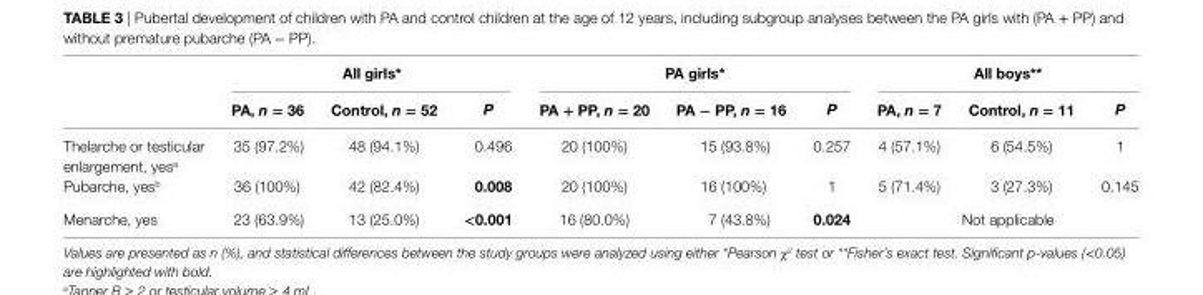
<table><thead><tr><td rowspan="2"></td><td colspan="3">all girls*</td><td colspan="3">Pa girls*</td><td colspan="3">all boys**</td></tr><tr><td>Pa, n = 36</td><td>control, n = 52</td><td>P</td><td>Pa + PP, n = 20</td><td>Pa − PP, n = 16</td><td>P</td><td>Pa, n = 7</td><td>control, n = 11</td><td>P</td></tr></thead><tbody><tr><td>Thelarche or testicular enlargement, yes<sup>a</sup></td><td>35 (97.2%)</td><td>48 (94.1%)</td><td>0.496</td><td>20 (100%)</td><td>15 (93.8%)</td><td>0.257</td><td>4 (57.1%)</td><td>6 (54.5%)</td><td>1</td></tr><tr><td>Pubarche, yes<sup>b</sup></td><td>36 (100%)</td><td>42 (82.4%)</td><td>0.008</td><td>20 (100%)</td><td>16 (100%)</td><td>1</td><td>5 (71.4%)</td><td>3 (27.3%)</td><td>0.145</td></tr><tr><td>Menarche, yes</td><td>23 (63.9%)</td><td>13 (25.0%)</td><td>&lt;0.001</td><td>16 (80.0%)</td><td>7 (43.8%)</td><td>0.024</td><td colspan="3">Not applicable</td></tr></tbody></table>